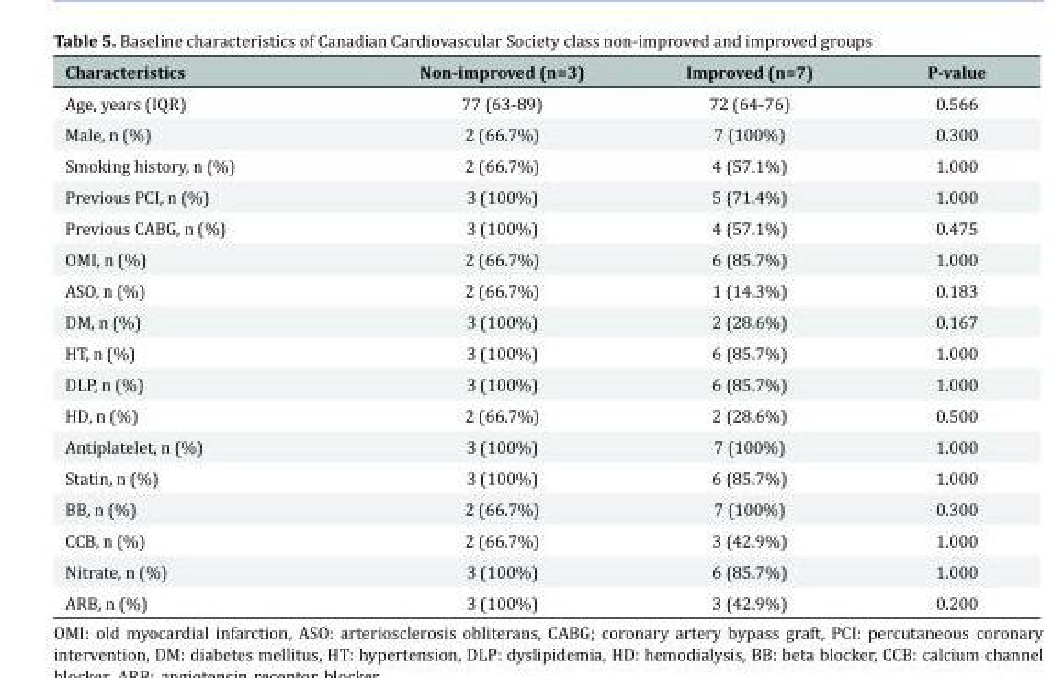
<table><thead><tr><td>Characteristics</td><td>Non-improved (n=3)</td><td>Improved (n=7)</td><td>P-value</td></tr></thead><tbody><tr><td>Age, years (IQR)</td><td>77 (63-89)</td><td>72 (64-76)</td><td>0.566</td></tr><tr><td>Male, n (%)</td><td>2 (66.7%)</td><td>7 (100%)</td><td>0.300</td></tr><tr><td>Smoking history, n (%)</td><td>2 (66.7%)</td><td>4 (57.1%)</td><td>1.000</td></tr><tr><td>Previous PCI, n (%)</td><td>3 (100%)</td><td>5 (71.4%)</td><td>1.000</td></tr><tr><td>Previous CABG, n (%)</td><td>3 (100%)</td><td>4 (57.1%)</td><td>0.475</td></tr><tr><td>OMI, n (%)</td><td>2 (66.7%)</td><td>6 (85.7%)</td><td>1.000</td></tr><tr><td>ASO, n (%)</td><td>2 (66.7%)</td><td>1 (14.3%)</td><td>0.183</td></tr><tr><td>DM, n (%)</td><td>3 (100%)</td><td>2 (28.6%)</td><td>0.167</td></tr><tr><td>HT, n (%)</td><td>3 (100%)</td><td>6 (85.7%)</td><td>1.000</td></tr><tr><td>DLP, n (%)</td><td>3 (100%)</td><td>6 (85.7%)</td><td>1.000</td></tr><tr><td>HD, n (%)</td><td>2 (66.7%)</td><td>2 (28.6%)</td><td>0.500</td></tr><tr><td>Antiplatelet, n (%)</td><td>3 (100%)</td><td>7 (100%)</td><td>1.000</td></tr><tr><td>Statin, n (%)</td><td>3 (100%)</td><td>6 (85.7%)</td><td>1.000</td></tr><tr><td>BB, n (%)</td><td>2 (66.7%)</td><td>7 (100%)</td><td>0.300</td></tr><tr><td>CCB, n (%)</td><td>2 (66.7%)</td><td>3 (42.9%)</td><td>1.000</td></tr><tr><td>Nitrate, n (%)</td><td>3 (100%)</td><td>6 (85.7%)</td><td>1.000</td></tr><tr><td>ARB, n (%)</td><td>3 (100%)</td><td>3 (42.9%)</td><td>0.200</td></tr></tbody></table>